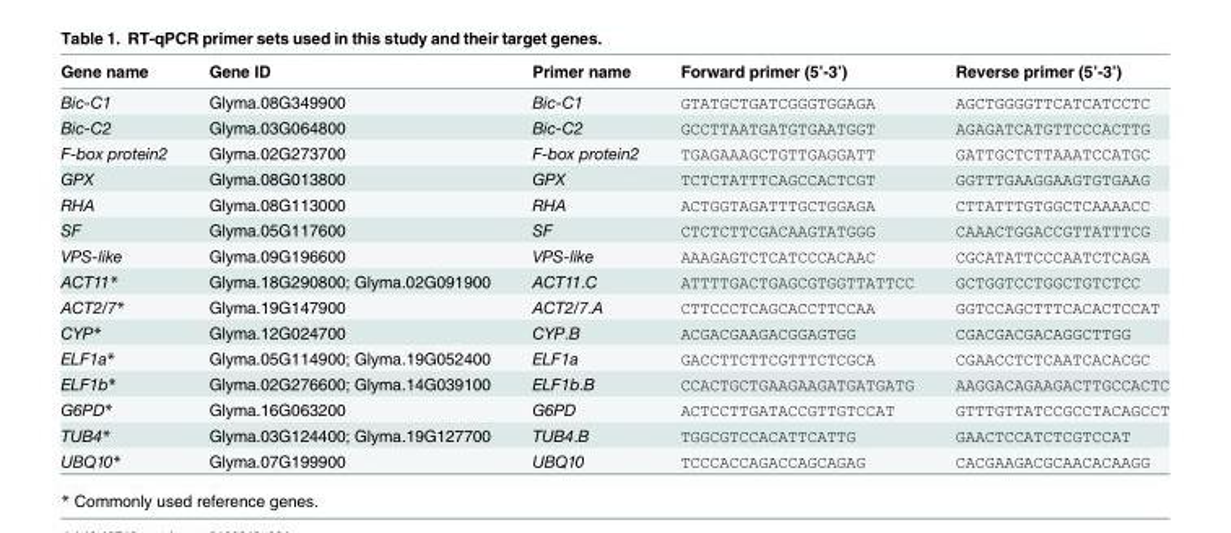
<table><thead><tr><td>Gene name</td><td>Gene ID</td><td>Primer name</td><td>Forward primer (5’-3’)</td><td>Reverse primer (5’-3’)</td></tr></thead><tbody><tr><td>Bic-C1</td><td>Glyma.08G349900</td><td>Bic-C1</td><td>GTATGCTGATCGGGTGGAGA</td><td>AGCTGGGGTTCATCATCCTC</td></tr><tr><td>Bic-C2</td><td>Glyma.03G064800</td><td>Bic-C2</td><td>GCCTTAATGATGTGAATGGT</td><td>AGAGATCATGTTCCCACTTG</td></tr><tr><td>F-box protein2</td><td>Glyma.02G273700</td><td>F-box protein2</td><td>TGAGAAAGCTGTTGAGGATT</td><td>GATTGCTCTTAAATCCATGC</td></tr><tr><td>GPX</td><td>Glyma.08G013800</td><td>GPX</td><td>TCTCTATTTCAGCCACTCGT</td><td>GGTTTGAAGGAAGTGTGAAG</td></tr><tr><td>RHA</td><td>Glyma.08G113000</td><td>RHA</td><td>ACTGGTAGATTTGCTGGAGA</td><td>CTTATTTGTGGCTCAAAACC</td></tr><tr><td>SF</td><td>Glyma.05G117600</td><td>SF</td><td>CTCTCTTCGACAAGTATGGG</td><td>CAAACTGGACCGTTATTTCG</td></tr><tr><td>VPS-like</td><td>Glyma.09G196600</td><td>VPS-like</td><td>AAAGAGTCTCATCCCACAAC</td><td>CGCATATTCCCAATCTCAGA</td></tr><tr><td>ACT11*</td><td>Glyma.18G290800; Glyma.02G091900</td><td>ACT11.C</td><td>ATTTTGACTGAGCGTGGTTATTCC</td><td>GCTGGTCCTGGCTGTCTCC</td></tr><tr><td>ACT2/7*</td><td>Glyma.19G147900</td><td>ACT2/7.A</td><td>CTTCCCTCAGCACCTTCCAA</td><td>GGTCCAGCTTTCACACTCCAT</td></tr><tr><td>CYP*</td><td>Glyma.12G024700</td><td>CYP.B</td><td>ACGACGAAGACGGAGTGG</td><td>CGACGACGACAGGCTTGG</td></tr><tr><td>ELF1a*</td><td>Glyma.05G114900; Glyma.19G052400</td><td>ELF1a</td><td>GACCTTCTTCGTTTCTCGCA</td><td>CGAACCTCTCAATCACACGC</td></tr><tr><td>ELF1b*</td><td>Glyma.02G276600; Glyma.14G039100</td><td>ELF1b.B</td><td>CCACTGCTGAAGAAGATGATGATG</td><td>AAGGACAGAAGACTTGCCACTC</td></tr><tr><td>G6PD*</td><td>Glyma.16G063200</td><td>G6PD</td><td>ACTCCTTGATACCGTTGTCCAT</td><td>GTTTGTTATCCGCCTACAGCCT</td></tr><tr><td>TUB4*</td><td>Glyma.03G124400; Glyma.19G127700</td><td>TUB4.B</td><td>TGGCGTCCACATTCATTG</td><td>GAACTCCATCTCGTCCAT</td></tr><tr><td>UBQ10*</td><td>Glyma.07G199900</td><td>UBQ10</td><td>TCCCACCAGACCAGCAGAG</td><td>CACGAAGACGCAACACAAGG</td></tr></tbody></table>